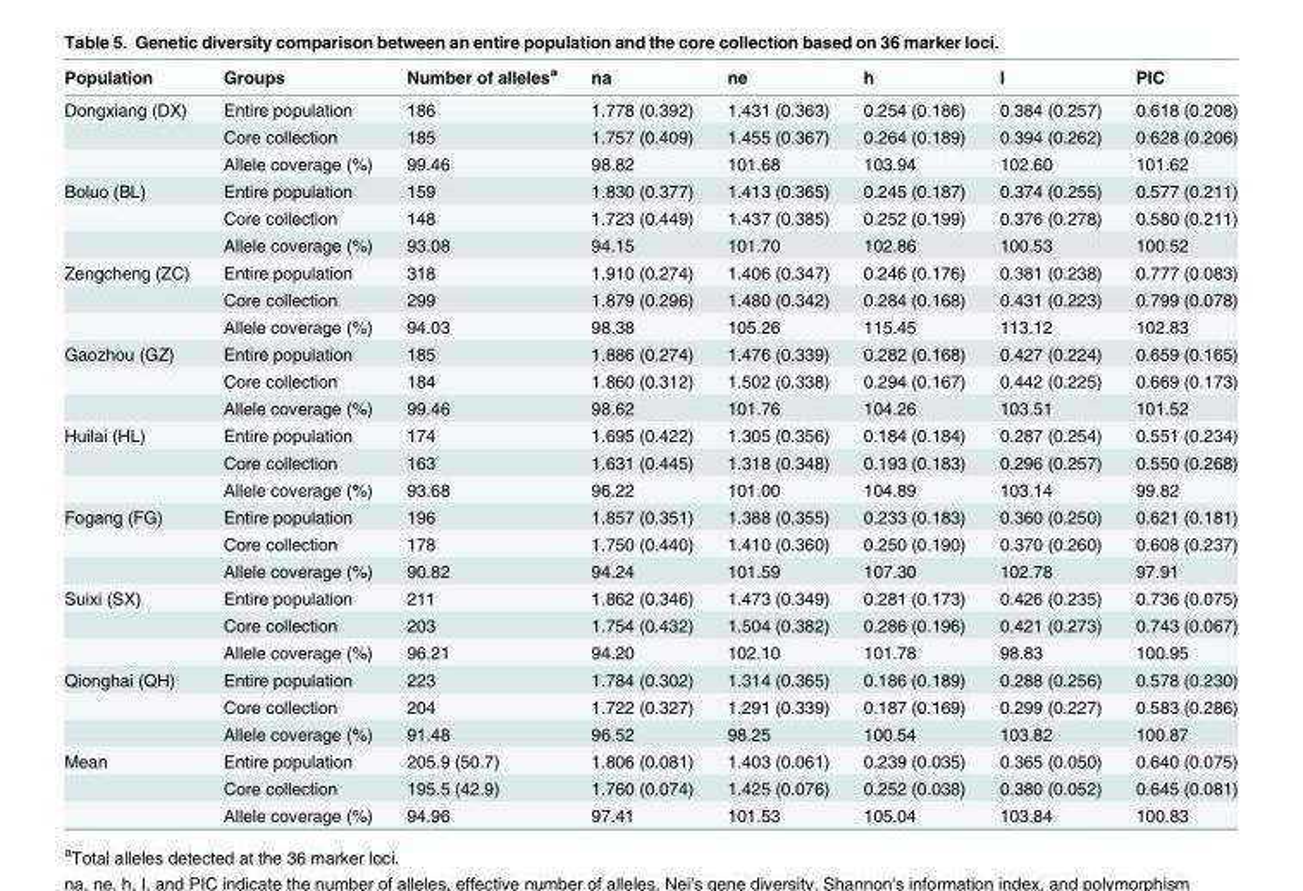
<table><thead><tr><td>Population</td><td>Groups</td><td>Number of alleles<sup>a</sup></td><td>na</td><td>ne</td><td>h</td><td>I</td><td>PIC</td></tr></thead><tbody><tr><td rowspan="3">Dongxiang (DX)</td><td>Entire population</td><td>186</td><td>1.778 (0.392)</td><td>1.431 (0.363)</td><td>0.254 (0.186)</td><td>0.384 (0.257)</td><td>0.618 (0.208)</td></tr><tr><td>Core collection</td><td>185</td><td>1.757 (0.409)</td><td>1.455 (0.367)</td><td>0.264 (0.189)</td><td>0.394 (0.262)</td><td>0.628 (0.206)</td></tr><tr><td>Allele coverage (%)</td><td>99.46</td><td>98.82</td><td>101.68</td><td>103.94</td><td>102.60</td><td>101.62</td></tr><tr><td rowspan="3">Boluo (BL)</td><td>Entire population</td><td>159</td><td>1.830 (0.377)</td><td>1.413 (0.365)</td><td>0.245 (0.187)</td><td>0.374 (0.255)</td><td>0.577 (0.211)</td></tr><tr><td>Core collection</td><td>148</td><td>1.723 (0.449)</td><td>1.437 (0.385)</td><td>0.252 (0.199)</td><td>0.376 (0.278)</td><td>0.580 (0.211)</td></tr><tr><td>Allele coverage (%)</td><td>93.08</td><td>94.15</td><td>101.70</td><td>102.86</td><td>100.53</td><td>100.52</td></tr><tr><td rowspan="3">Zengcheng (ZC)</td><td>Entire population</td><td>318</td><td>1.910 (0.274)</td><td>1.406 (0.347)</td><td>0.246 (0.176)</td><td>0.381 (0.238)</td><td>0.777 (0.083)</td></tr><tr><td>Core collection</td><td>299</td><td>1.879 (0.296)</td><td>1.480 (0.342)</td><td>0.284 (0.168)</td><td>0.431 (0.223)</td><td>0.799 (0.078)</td></tr><tr><td>Allele coverage (%)</td><td>94.03</td><td>98.38</td><td>105.26</td><td>115.45</td><td>113.12</td><td>102.83</td></tr><tr><td rowspan="3">Gaozhou (GZ)</td><td>Entire population</td><td>185</td><td>1.886 (0.274)</td><td>1.476 (0.339)</td><td>0.282 (0.168)</td><td>0.427 (0.224)</td><td>0.659 (0.165)</td></tr><tr><td>Core collection</td><td>184</td><td>1.860 (0.312)</td><td>1.502 (0.338)</td><td>0.294 (0.167)</td><td>0.442 (0.225)</td><td>0.669 (0.173)</td></tr><tr><td>Allele coverage (%)</td><td>99.46</td><td>98.62</td><td>101.76</td><td>104.26</td><td>103.51</td><td>101.52</td></tr><tr><td rowspan="3">Huilai (HL)</td><td>Entire population</td><td>174</td><td>1.695 (0.422)</td><td>1.305 (0.356)</td><td>0.184 (0.184)</td><td>0.287 (0.254)</td><td>0.551 (0.234)</td></tr><tr><td>Core collection</td><td>163</td><td>1.631 (0.445)</td><td>1.318 (0.348)</td><td>0.193 (0.183)</td><td>0.296 (0.257)</td><td>0.550 (0.268)</td></tr><tr><td>Allele coverage (%)</td><td>93.68</td><td>96.22</td><td>101.00</td><td>104.89</td><td>103.14</td><td>99.82</td></tr><tr><td rowspan="3">Fogang (FG)</td><td>Entire population</td><td>196</td><td>1.857 (0.351)</td><td>1.388 (0.355)</td><td>0.233 (0.183)</td><td>0.360 (0.250)</td><td>0.621 (0.181)</td></tr><tr><td>Core collection</td><td>178</td><td>1.750 (0.440)</td><td>1.410 (0.360)</td><td>0.250 (0.190)</td><td>0.370 (0.260)</td><td>0.608 (0.237)</td></tr><tr><td>Allele coverage (%)</td><td>90.82</td><td>94.24</td><td>101.59</td><td>107.30</td><td>102.78</td><td>97.91</td></tr><tr><td rowspan="3">Suixi (SX)</td><td>Entire population</td><td>211</td><td>1.862 (0.346)</td><td>1.473 (0.349)</td><td>0.281 (0.173)</td><td>0.426 (0.235)</td><td>0.736 (0.075)</td></tr><tr><td>Core collection</td><td>203</td><td>1.754 (0.432)</td><td>1.504 (0.382)</td><td>0.286 (0.196)</td><td>0.421 (0.273)</td><td>0.743 (0.067)</td></tr><tr><td>Allele coverage (%)</td><td>96.21</td><td>94.20</td><td>102.10</td><td>101.78</td><td>98.83</td><td>100.95</td></tr><tr><td rowspan="3">Qionghai (QH)</td><td>Entire population</td><td>223</td><td>1.784 (0.302)</td><td>1.314 (0.365)</td><td>0.186 (0.189)</td><td>0.288 (0.256)</td><td>0.578 (0.230)</td></tr><tr><td>Core collection</td><td>204</td><td>1.722 (0.327)</td><td>1.291 (0.339)</td><td>0.187 (0.169)</td><td>0.299 (0.227)</td><td>0.583 (0.286)</td></tr><tr><td>Allele coverage (%)</td><td>91.48</td><td>96.52</td><td>98.25</td><td>100.54</td><td>103.82</td><td>100.87</td></tr><tr><td rowspan="3">Mean</td><td>Entire population</td><td>205.9 (50.7)</td><td>1.806 (0.081)</td><td>1.403 (0.061)</td><td>0.239 (0.035)</td><td>0.365 (0.050)</td><td>0.640 (0.075)</td></tr><tr><td>Core collection</td><td>195.5 (42.9)</td><td>1.760 (0.074)</td><td>1.425 (0.076)</td><td>0.252 (0.038)</td><td>0.380 (0.052)</td><td>0.645 (0.081)</td></tr><tr><td>Allele coverage (%)</td><td>94.96</td><td>97.41</td><td>101.53</td><td>105.04</td><td>103.84</td><td>100.83</td></tr></tbody></table>